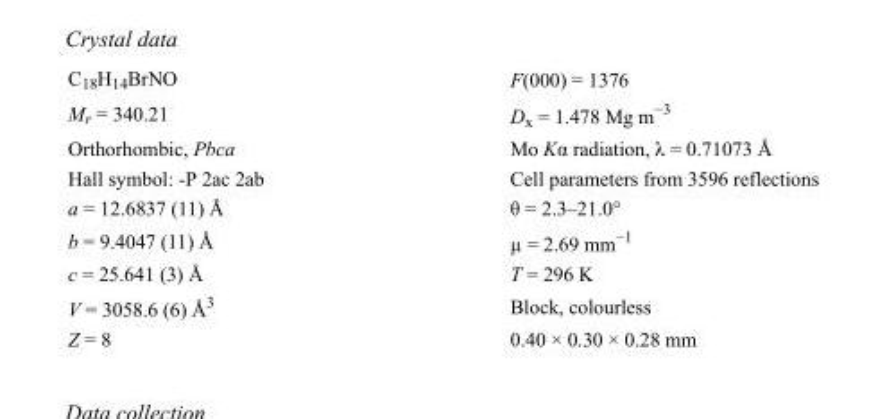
<table><tbody><tr><td>C<sub>18</sub>H<sub>14</sub>BrNO</td><td>F(000) = 1376</td></tr><tr><td>M<sub>r</sub> = 340.21</td><td>D<sub>x</sub> = 1.478 Mg m<sup>−3</sup></td></tr><tr><td>Orthorhombic, Pbca</td><td>Mo Kα radiation, λ = 0.71073 Å</td></tr><tr><td>Hall symbol: -P 2ac 2ab</td><td>Cell parameters from 3596 reflections</td></tr><tr><td>a = 12.6837 (11) Å</td><td>θ = 2.3–21.0°</td></tr><tr><td>b = 9.4047 (11) Å</td><td>µ = 2.69 mm<sup>−1</sup></td></tr><tr><td>c = 25.641 (3) Å</td><td>T = 296 K</td></tr><tr><td>V = 3058.6 (6) Å<sup>3</sup></td><td>Block, colourless</td></tr><tr><td>Z = 8</td><td>0.40 × 0.30 × 0.28 mm</td></tr></tbody></table>